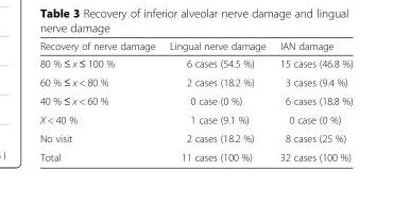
<table><thead><tr><td>Recovery of nerve damage</td><td>Lingual nerve damage</td><td>IAN damage</td></tr></thead><tbody><tr><td>80 % ≤ x ≤ 100 %</td><td>6 cases (54.5 %)</td><td>15 cases (46.8 %)</td></tr><tr><td>60 % ≤ x &lt; 80 %</td><td>2 cases (18.2 %)</td><td>3 cases (9.4 %)</td></tr><tr><td>40 % ≤ x &lt; 60 %</td><td>0 case (0 %)</td><td>6 cases (18.8 %)</td></tr><tr><td>X &lt; 40 %</td><td>1 case (9.1 %)</td><td>0 case (0 %)</td></tr><tr><td>No visit</td><td>2 cases (18.2 %)</td><td>8 cases (25 %)</td></tr><tr><td>Total</td><td>11 cases (100 %)</td><td>32 cases (100 %)</td></tr></tbody></table>